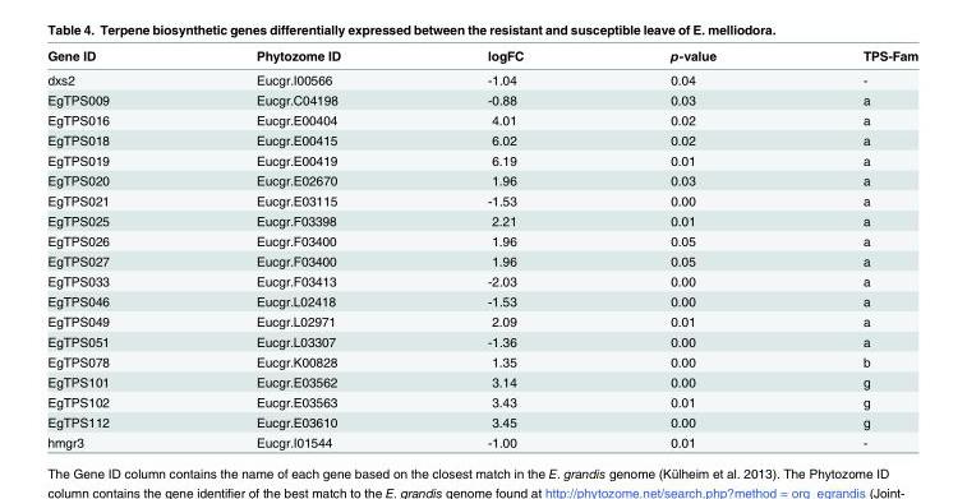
<table><thead><tr><td>Gene ID</td><td>Phytozome ID</td><td>logFC</td><td>p-value</td><td>TPS-Fam</td></tr></thead><tbody><tr><td>dxs2</td><td>Eucgr.I00566</td><td>-1.04</td><td>0.04</td><td>-</td></tr><tr><td>EgTPS009</td><td>Eucgr.C04198</td><td>-0.88</td><td>0.03</td><td>a</td></tr><tr><td>EgTPS016</td><td>Eucgr.E00404</td><td>4.01</td><td>0.02</td><td>a</td></tr><tr><td>EgTPS018</td><td>Eucgr.E00415</td><td>6.02</td><td>0.02</td><td>a</td></tr><tr><td>EgTPS019</td><td>Eucgr.E00419</td><td>6.19</td><td>0.01</td><td>a</td></tr><tr><td>EgTPS020</td><td>Eucgr.E02670</td><td>1.96</td><td>0.03</td><td>a</td></tr><tr><td>EgTPS021</td><td>Eucgr.E03115</td><td>-1.53</td><td>0.00</td><td>a</td></tr><tr><td>EgTPS025</td><td>Eucgr.F03398</td><td>2.21</td><td>0.01</td><td>a</td></tr><tr><td>EgTPS026</td><td>Eucgr.F03400</td><td>1.96</td><td>0.05</td><td>a</td></tr><tr><td>EgTPS027</td><td>Eucgr.F03400</td><td>1.96</td><td>0.05</td><td>a</td></tr><tr><td>EgTPS033</td><td>Eucgr.F03413</td><td>-2.03</td><td>0.00</td><td>a</td></tr><tr><td>EgTPS046</td><td>Eucgr.L02418</td><td>-1.53</td><td>0.00</td><td>a</td></tr><tr><td>EgTPS049</td><td>Eucgr.L02971</td><td>2.09</td><td>0.01</td><td>a</td></tr><tr><td>EgTPS051</td><td>Eucgr.L03307</td><td>-1.36</td><td>0.00</td><td>a</td></tr><tr><td>EgTPS078</td><td>Eucgr.K00828</td><td>1.35</td><td>0.00</td><td>b</td></tr><tr><td>EgTPS101</td><td>Eucgr.E03562</td><td>3.14</td><td>0.00</td><td>g</td></tr><tr><td>EgTPS102</td><td>Eucgr.E03563</td><td>3.43</td><td>0.01</td><td>g</td></tr><tr><td>EgTPS112</td><td>Eucgr.E03610</td><td>3.45</td><td>0.00</td><td>g</td></tr><tr><td>hmgr3</td><td>Eucgr.I01544</td><td>-1.00</td><td>0.01</td><td>-</td></tr></tbody></table>